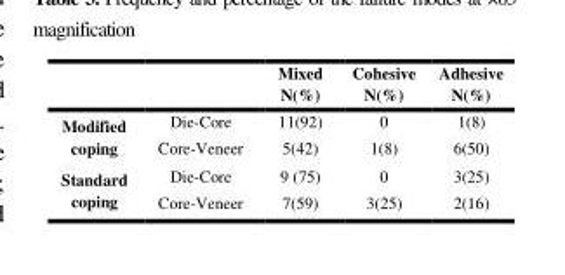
<table><thead><tr><td></td><td></td><td>Mixed N(%)</td><td>Cohesive N(%)</td><td>Adhesive N(%)</td></tr></thead><tbody><tr><td rowspan="2">Modified coping</td><td>Die-Core</td><td>11(92)</td><td>0</td><td>1(8)</td></tr><tr><td>Core-Veneer</td><td>5(42)</td><td>1(8)</td><td>6(50)</td></tr><tr><td rowspan="2">Standard coping</td><td>Die-Core</td><td>9 (75)</td><td>0</td><td>3(25)</td></tr><tr><td>Core-Veneer</td><td>7(59)</td><td>3(25)</td><td>2(16)</td></tr></tbody></table>